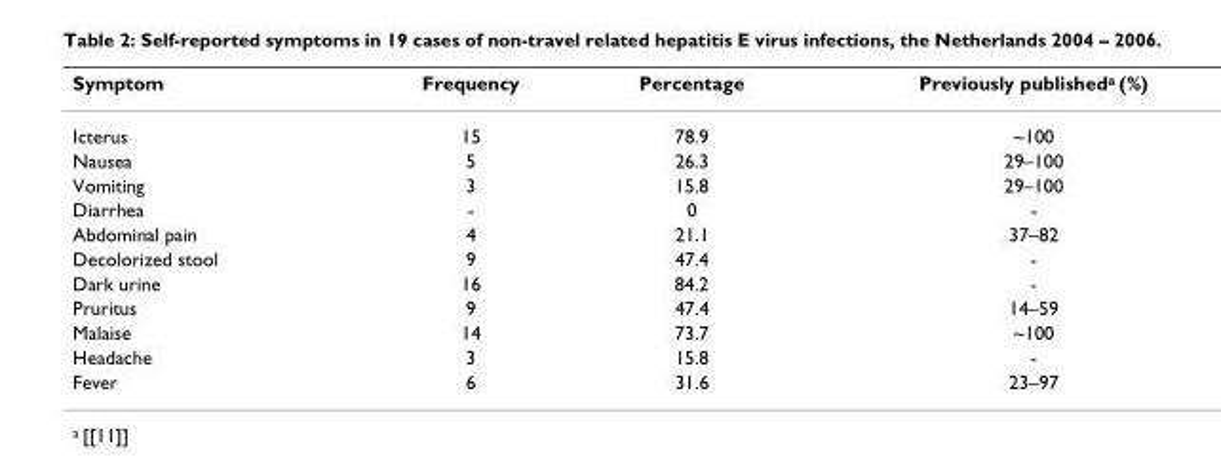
<table><thead><tr><td>Symptom</td><td>Frequency</td><td>Percentage</td><td>Previously published<sup>a</sup> (%)</td></tr></thead><tbody><tr><td>Icterus</td><td>15</td><td>78.9</td><td>~100</td></tr><tr><td>Nausea</td><td>5</td><td>26.3</td><td>29–100</td></tr><tr><td>Vomiting</td><td>3</td><td>15.8</td><td>29–100</td></tr><tr><td>Diarrhea</td><td>-</td><td>0</td><td>-</td></tr><tr><td>Abdominal pain</td><td>4</td><td>21.1</td><td>37–82</td></tr><tr><td>Decolorized stool</td><td>9</td><td>47.4</td><td>-</td></tr><tr><td>Dark urine</td><td>16</td><td>84.2</td><td>-</td></tr><tr><td>Pruritus</td><td>9</td><td>47.4</td><td>14–59</td></tr><tr><td>Malaise</td><td>14</td><td>73.7</td><td>~100</td></tr><tr><td>Headache</td><td>3</td><td>15.8</td><td>-</td></tr><tr><td>Fever</td><td>6</td><td>31.6</td><td>23–97</td></tr></tbody></table>